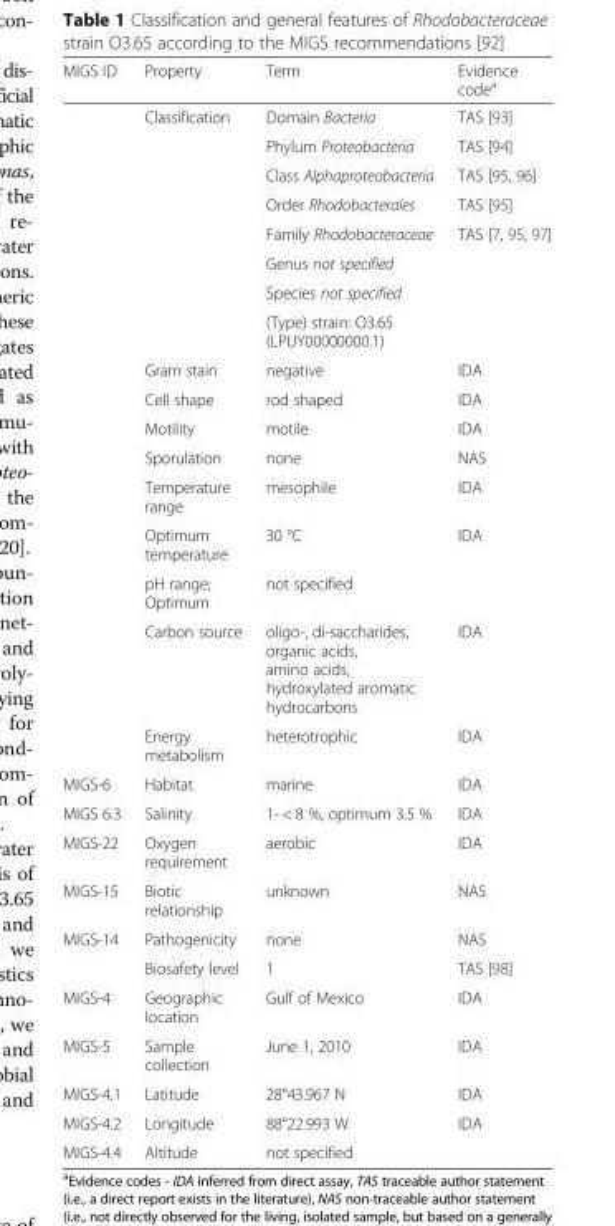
<table><thead><tr><td>MIGS ID</td><td>Property</td><td>Term</td><td>Evidence code<sup>a</sup></td></tr></thead><tbody><tr><td rowspan="17"></td><td rowspan="8">Classification</td><td>Domain Bacteria</td><td>TAS [93]</td></tr><tr><td>Phylum Proteobacteria</td><td>TAS [94]</td></tr><tr><td>Class Alphaproteobacteria</td><td>TAS [95, 96]</td></tr><tr><td>Order Rhodobacterales</td><td>TAS [95]</td></tr><tr><td>Family Rhodobacteraceae</td><td rowspan="4">TAS [7, 95, 97]</td></tr><tr><td>Genus not specified</td></tr><tr><td>Species not specified</td></tr><tr><td>(Type) strain: O3.65 (LPUY00000000.1)</td></tr><tr><td>Gram stain</td><td>negative</td><td>IDA</td></tr><tr><td>Cell shape</td><td>rod shaped</td><td>IDA</td></tr><tr><td>Motility</td><td>motile</td><td>IDA</td></tr><tr><td>Sporulation</td><td>none</td><td>NAS</td></tr><tr><td>Temperature range</td><td>mesophile</td><td>IDA</td></tr><tr><td>Optimum temperature</td><td>30 °C</td><td rowspan="2">IDA</td></tr><tr><td>pH range; Optimum</td><td>not specified</td></tr><tr><td>Carbon source</td><td>oligo-, di-saccharides, organic acids, amino acids, hydroxylated aromatic hydrocarbons</td><td>IDA</td></tr><tr><td>Energy metabolism</td><td>heterotrophic</td><td>IDA</td></tr><tr><td>MIGS-6</td><td>Habitat</td><td>marine</td><td>IDA</td></tr><tr><td>MIGS 6.3</td><td>Salinity</td><td>1- &lt; 8 %, optimum 3.5 %</td><td>IDA</td></tr><tr><td>MIGS-22</td><td>Oxygen requirement</td><td>aerobic</td><td>IDA</td></tr><tr><td>MIGS-15</td><td>Biotic relationship</td><td>unknown</td><td>NAS</td></tr><tr><td rowspan="2">MIGS-14</td><td>Pathogenicity</td><td>none</td><td>NAS</td></tr><tr><td>Biosafety level</td><td>1</td><td>TAS [98]</td></tr><tr><td>MIGS-4</td><td>Geographic location</td><td>Gulf of Mexico</td><td>IDA</td></tr><tr><td>MIGS-5</td><td>Sample collection</td><td>June 1, 2010</td><td>IDA</td></tr><tr><td>MIGS-4.1</td><td>Latitude</td><td>28°43.967 N</td><td>IDA</td></tr><tr><td>MIGS-4.2</td><td>Longitude</td><td>88°22.993 W</td><td rowspan="2">IDA</td></tr><tr><td>MIGS-4.4</td><td>Altitude</td><td>not specified</td></tr></tbody></table>